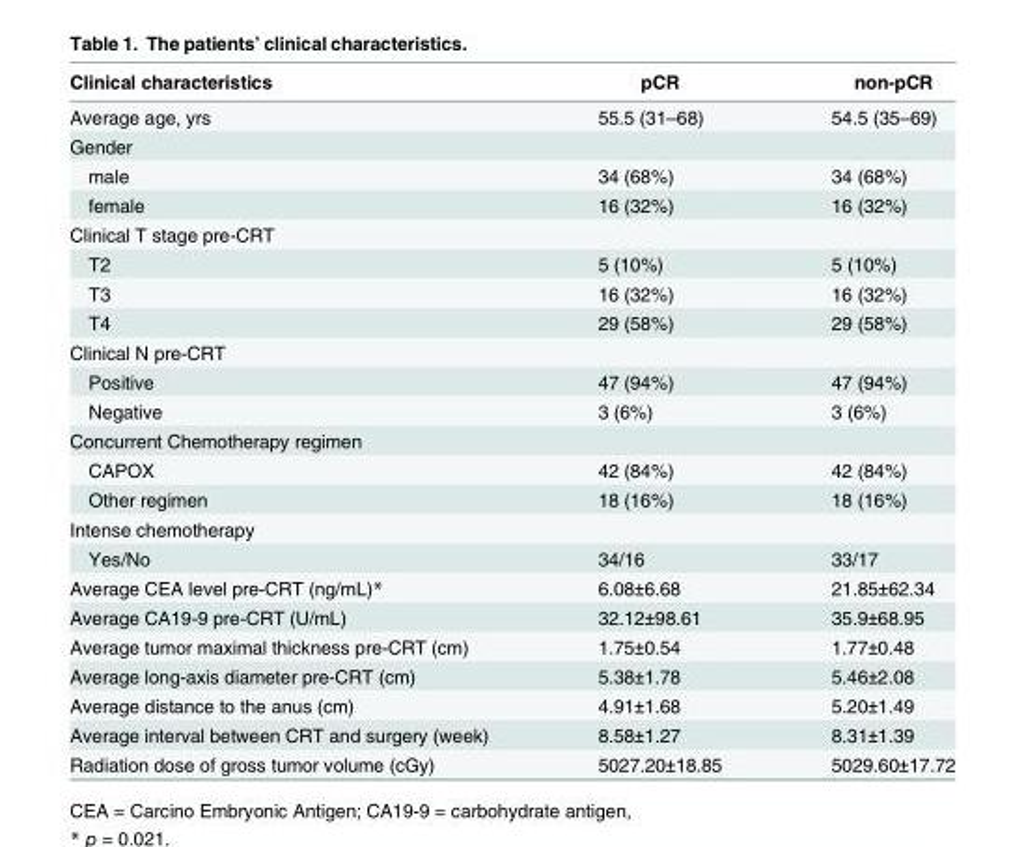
<table><thead><tr><td>Clinical characteristics</td><td>pCR</td><td>non-pCR</td></tr></thead><tbody><tr><td>Average age, yrs</td><td>55.5 (31–68)</td><td>54.5 (35–69)</td></tr><tr><td colspan="3">Gender</td></tr><tr><td>male</td><td>34 (68%)</td><td>34 (68%)</td></tr><tr><td>female</td><td>16 (32%)</td><td>16 (32%)</td></tr><tr><td colspan="3">Clinical T stage pre-CRT</td></tr><tr><td>T2</td><td>5 (10%)</td><td>5 (10%)</td></tr><tr><td>T3</td><td>16 (32%)</td><td>16 (32%)</td></tr><tr><td>T4</td><td>29 (58%)</td><td>29 (58%)</td></tr><tr><td colspan="3">Clinical N pre-CRT</td></tr><tr><td>Positive</td><td>47 (94%)</td><td>47 (94%)</td></tr><tr><td>Negative</td><td>3 (6%)</td><td>3 (6%)</td></tr><tr><td colspan="3">Concurrent Chemotherapy regimen</td></tr><tr><td>CAPOX</td><td>42 (84%)</td><td>42 (84%)</td></tr><tr><td>Other regimen</td><td>18 (16%)</td><td>18 (16%)</td></tr><tr><td colspan="3">Intense chemotherapy</td></tr><tr><td>Yes/No</td><td>34/16</td><td>33/17</td></tr><tr><td>Average CEA level pre-CRT (ng/mL)*</td><td>6.08±6.68</td><td>21.85±62.34</td></tr><tr><td>Average CA19-9 pre-CRT (U/mL)</td><td>32.12±98.61</td><td>35.9±68.95</td></tr><tr><td>Average tumor maximal thickness pre-CRT (cm)</td><td>1.75±0.54</td><td>1.77±0.48</td></tr><tr><td>Average long-axis diameter pre-CRT (cm)</td><td>5.38±1.78</td><td>5.46±2.08</td></tr><tr><td>Average distance to the anus (cm)</td><td>4.91±1.68</td><td>5.20±1.49</td></tr><tr><td>Average interval between CRT and surgery (week)</td><td>8.58±1.27</td><td>8.31±1.39</td></tr><tr><td>Radiation dose of gross tumor volume (cGy)</td><td>5027.20±18.85</td><td>5029.60±17.72</td></tr></tbody></table>